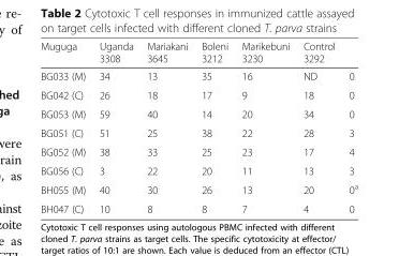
<table><thead><tr><td>Muguga</td><td>Uganda 3308</td><td>Mariakani 3645</td><td>Boleni 3212</td><td>Marikebuni 3230</td><td>Control 3292</td><td></td></tr></thead><tbody><tr><td>BG033 (M)</td><td>34</td><td>13</td><td>35</td><td>16</td><td>ND</td><td>0</td></tr><tr><td>BG042 (C)</td><td>26</td><td>18</td><td>17</td><td>9</td><td>18</td><td>0</td></tr><tr><td>BG053 (M)</td><td>59</td><td>40</td><td>14</td><td>20</td><td>34</td><td>0</td></tr><tr><td>BG051 (C)</td><td>51</td><td>25</td><td>38</td><td>22</td><td>28</td><td>3</td></tr><tr><td>BG052 (M)</td><td>38</td><td>33</td><td>25</td><td>23</td><td>17</td><td>4</td></tr><tr><td>BG056 (C)</td><td>3</td><td>22</td><td>20</td><td>11</td><td>13</td><td>3</td></tr><tr><td>BH055 (M)</td><td>40</td><td>30</td><td>26</td><td>13</td><td>20</td><td>0<sup>a</sup></td></tr><tr><td>BH047 (C)</td><td>10</td><td>8</td><td>8</td><td>7</td><td>4</td><td>0</td></tr></tbody></table>